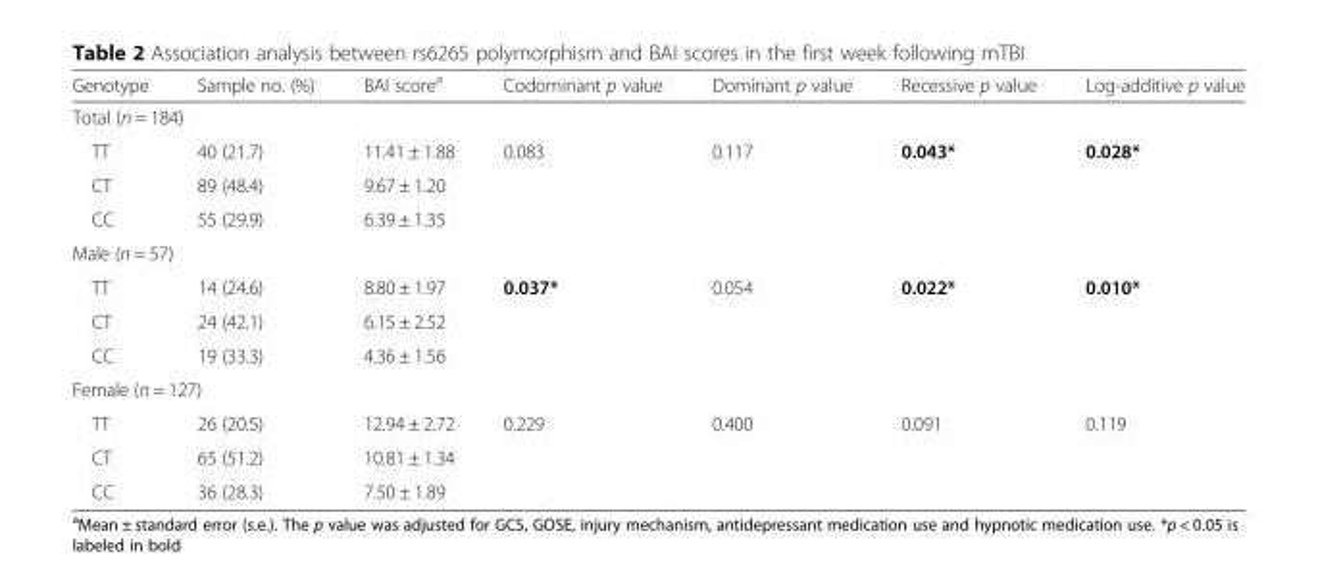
<table><thead><tr><td>Genotype</td><td>Sample no. (%)</td><td>BAI score<sup>a</sup></td><td>Codominant p value</td><td>Dominant p value</td><td>Recessive p value</td><td>Log-additive p value</td></tr></thead><tbody><tr><td colspan="7">Total (n = 184)</td></tr><tr><td>TT</td><td>40 (21.7)</td><td>11.41 ± 1.88</td><td>0.083</td><td>0.117</td><td>0.043*</td><td>0.028*</td></tr><tr><td>CT</td><td>89 (48.4)</td><td>9.67 ± 1.20</td><td></td><td></td><td></td><td></td></tr><tr><td>CC</td><td>55 (29.9)</td><td>6.39 ± 1.35</td><td></td><td></td><td></td><td></td></tr><tr><td colspan="7">Male (n = 57)</td></tr><tr><td>TT</td><td>14 (24.6)</td><td>8.80 ± 1.97</td><td>0.037*</td><td>0.054</td><td>0.022*</td><td>0.010*</td></tr><tr><td>CT</td><td>24 (42.1)</td><td>6.15 ± 2.52</td><td></td><td></td><td></td><td></td></tr><tr><td>CC</td><td>19 (33.3)</td><td>4.36 ± 1.56</td><td></td><td></td><td></td><td></td></tr><tr><td colspan="7">Female (n = 127)</td></tr><tr><td>TT</td><td>26 (20.5)</td><td>12.94 ± 2.72</td><td>0.229</td><td>0.400</td><td>0.091</td><td>0.119</td></tr><tr><td>CT</td><td>65 (51.2)</td><td>10.81 ± 1.34</td><td></td><td></td><td></td><td></td></tr><tr><td>CC</td><td>36 (28.3)</td><td>7.50 ± 1.89</td><td></td><td></td><td></td><td></td></tr></tbody></table>